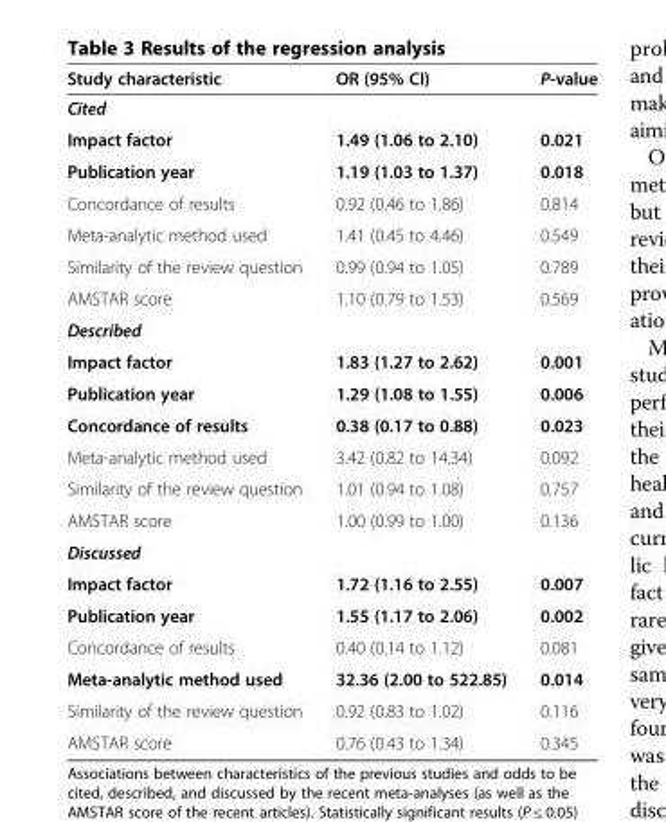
<table><thead><tr><td>Study characteristic</td><td>OR (95% CI)</td><td>P-value</td></tr></thead><tbody><tr><td colspan="3">Cited</td></tr><tr><td>Impact factor</td><td>1.49 (1.06 to 2.10)</td><td>0.021</td></tr><tr><td>Publication year</td><td>1.19 (1.03 to 1.37)</td><td>0.018</td></tr><tr><td>Concordance of results</td><td>0.92 (0.46 to 1.86)</td><td>0.814</td></tr><tr><td>Meta-analytic method used</td><td>1.41 (0.45 to 4.46)</td><td>0.549</td></tr><tr><td>Similarity of the review question</td><td>0.99 (0.94 to 1.05)</td><td>0.789</td></tr><tr><td>AMSTAR score</td><td>1.10 (0.79 to 1.53)</td><td>0.569</td></tr><tr><td colspan="3">Described</td></tr><tr><td>Impact factor</td><td>1.83 (1.27 to 2.62)</td><td>0.001</td></tr><tr><td>Publication year</td><td>1.29 (1.08 to 1.55)</td><td>0.006</td></tr><tr><td>Concordance of results</td><td>0.38 (0.17 to 0.88)</td><td>0.023</td></tr><tr><td>Meta-analytic method used</td><td>3.42 (0.82 to 14.34)</td><td>0.092</td></tr><tr><td>Similarity of the review question</td><td>1.01 (0.94 to 1.08)</td><td>0.757</td></tr><tr><td>AMSTAR score</td><td>1.00 (0.99 to 1.00)</td><td>0.136</td></tr><tr><td colspan="3">Discussed</td></tr><tr><td>Impact factor</td><td>1.72 (1.16 to 2.55)</td><td>0.007</td></tr><tr><td>Publication year</td><td>1.55 (1.17 to 2.06)</td><td>0.002</td></tr><tr><td>Concordance of results</td><td>0.40 (0.14 to 1.12)</td><td>0.081</td></tr><tr><td>Meta-analytic method used</td><td>32.36 (2.00 to 522.85)</td><td>0.014</td></tr><tr><td>Similarity of the review question</td><td>0.92 (0.83 to 1.02)</td><td>0.116</td></tr><tr><td>AMSTAR score</td><td>0.76 (0.43 to 1.34)</td><td>0.345</td></tr></tbody></table>